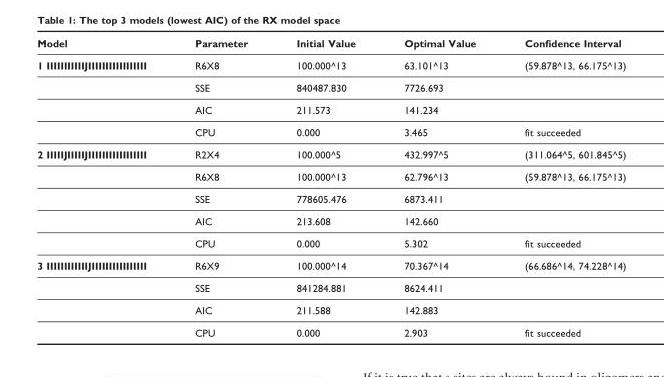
<table><thead><tr><td>Model</td><td>Parameter</td><td>Initial Value</td><td>Optimal Value</td><td>Confidence Interval</td></tr></thead><tbody><tr><td rowspan="4">1 IIIIIIIIIIIJIIIIIIIIIIIIIIIII</td><td>R6X8</td><td>100.000^13</td><td>63.101^13</td><td>(59.878^13, 66.175^13)</td></tr><tr><td>SSE</td><td>840487.830</td><td>7726.693</td><td></td></tr><tr><td>AIC</td><td>211.573</td><td>141.234</td><td></td></tr><tr><td>CPU</td><td>0.000</td><td>3.465</td><td>fit succeeded</td></tr><tr><td rowspan="5">2 IIIIIJIIIIIJIIIIIIIIIIIIIIIII</td><td>R2X4</td><td>100.000^5</td><td>432.997^5</td><td>(311.064^5, 601.845^5)</td></tr><tr><td>R6X8</td><td>100.000^13</td><td>62.796^13</td><td>(59.878^13, 66.175^13)</td></tr><tr><td>SSE</td><td>778605.476</td><td>6873.411</td><td></td></tr><tr><td>AIC</td><td>213.608</td><td>142.660</td><td></td></tr><tr><td>CPU</td><td>0.000</td><td>5.302</td><td>fit succeeded</td></tr><tr><td rowspan="4">3 IIIIIIIIIIIIJIIIIIIIIIIIIIIII</td><td>R6X9</td><td>100.000^14</td><td>70.367^14</td><td>(66.686^14, 74.228^14)</td></tr><tr><td>SSE</td><td>841284.881</td><td>8624.411</td><td></td></tr><tr><td>AIC</td><td>211.588</td><td>142.883</td><td></td></tr><tr><td>CPU</td><td>0.000</td><td>2.903</td><td>fit succeeded</td></tr></tbody></table>